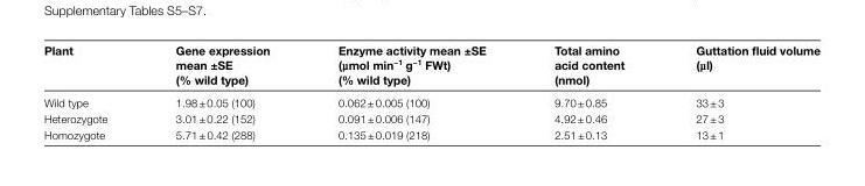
<table><thead><tr><td>Plant</td><td>Gene expression mean ±SE (% wild type)</td><td>Enzyme activity mean ±SE (µmol min<sup>−1</sup> g<sup>−1</sup> FWt) (% wild type)</td><td>Total amino acid content (nmol)</td><td>Guttation fluid volume (µl)</td></tr></thead><tbody><tr><td>Wild type</td><td>1.98 ± 0.05 (100)</td><td>0.062 ± 0.005 (100)</td><td>9.70 ± 0.85</td><td>33 ± 3</td></tr><tr><td>Heterozygote</td><td>3.01 ± 0.22 (152)</td><td>0.091 ± 0.006 (147)</td><td>4.92 ± 0.46</td><td>27 ± 3</td></tr><tr><td>Homozygote</td><td>5.71 ± 0.42 (288)</td><td>0.135 ± 0.019 (218)</td><td>2.51 ± 0.13</td><td>13 ± 1</td></tr></tbody></table>